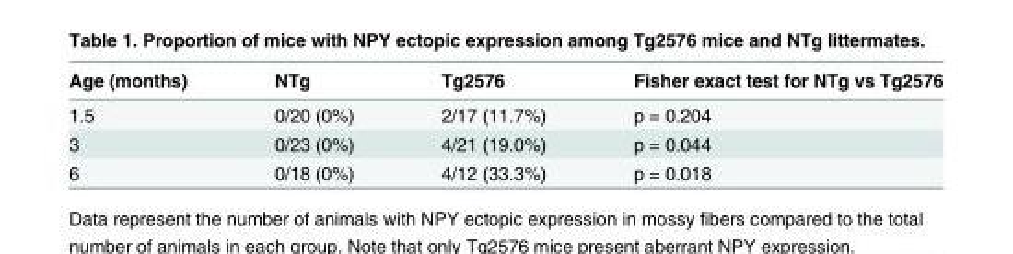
<table><thead><tr><td>Age (months)</td><td>NTg</td><td>Tg2576</td><td>Fisher exact test for NTg vs Tg2576</td></tr></thead><tbody><tr><td>1.5</td><td>0/20 (0%)</td><td>2/17 (11.7%)</td><td>p = 0.204</td></tr><tr><td>3</td><td>0/23 (0%)</td><td>4/21 (19.0%)</td><td>p = 0.044</td></tr><tr><td>6</td><td>0/18 (0%)</td><td>4/12 (33.3%)</td><td>p = 0.018</td></tr></tbody></table>